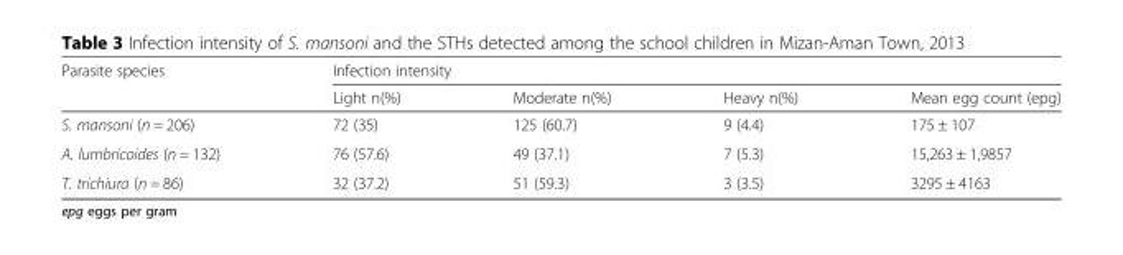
<table><thead><tr><td rowspan="2">Parasite species</td><td colspan="4">Infection intensity</td></tr><tr><td>Light n(%)</td><td>Moderate n(%)</td><td>Heavy n(%)</td><td>Mean egg count (epg)</td></tr></thead><tbody><tr><td>S. mansoni (n = 206)</td><td>72 (35)</td><td>125 (60.7)</td><td>9 (4.4)</td><td>175 ± 107</td></tr><tr><td>A. lumbricoides (n = 132)</td><td>76 (57.6)</td><td>49 (37.1)</td><td>7 (5.3)</td><td>15,263 ± 1,9857</td></tr><tr><td>T. trichiura (n = 86)</td><td>32 (37.2)</td><td>51 (59.3)</td><td>3 (3.5)</td><td>3295 ± 4163</td></tr></tbody></table>